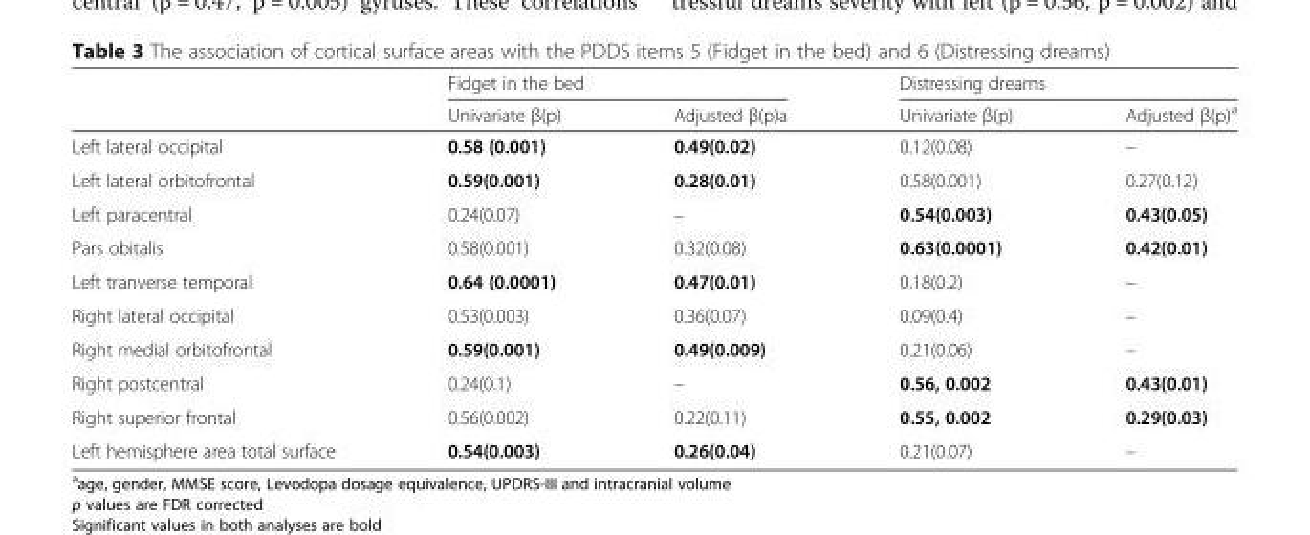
<table><thead><tr><td rowspan="2"></td><td colspan="2">Fidget in the bed</td><td colspan="2">Distressing dreams</td></tr><tr><td>Univariate β(p)</td><td>Adjusted β(p)a</td><td>Univariate β(p)</td><td>Adjusted β(p)<sup>a</sup></td></tr></thead><tbody><tr><td>Left lateral occipital</td><td>0.58 (0.001)</td><td>0.49(0.02)</td><td>0.12(0.08)</td><td>–</td></tr><tr><td>Left lateral orbitofrontal</td><td>0.59(0.001)</td><td>0.28(0.01)</td><td>0.58(0.001)</td><td>0.27(0.12)</td></tr><tr><td>Left paracentral</td><td>0.24(0.07)</td><td>–</td><td>0.54(0.003)</td><td>0.43(0.05)</td></tr><tr><td>Pars obitalis</td><td>0.58(0.001)</td><td>0.32(0.08)</td><td>0.63(0.0001)</td><td>0.42(0.01)</td></tr><tr><td>Left tranverse temporal</td><td>0.64 (0.0001)</td><td>0.47(0.01)</td><td>0.18(0.2)</td><td>–</td></tr><tr><td>Right lateral occipital</td><td>0.53(0.003)</td><td>0.36(0.07)</td><td>0.09(0.4)</td><td>–</td></tr><tr><td>Right medial orbitofrontal</td><td>0.59(0.001)</td><td>0.49(0.009)</td><td>0.21(0.06)</td><td>–</td></tr><tr><td>Right postcentral</td><td>0.24(0.1)</td><td>–</td><td>0.56, 0.002</td><td>0.43(0.01)</td></tr><tr><td>Right superior frontal</td><td>0.56(0.002)</td><td>0.22(0.11)</td><td>0.55, 0.002</td><td>0.29(0.03)</td></tr><tr><td>Left hemisphere area total surface</td><td>0.54(0.003)</td><td>0.26(0.04)</td><td>0.21(0.07)</td><td>–</td></tr></tbody></table>